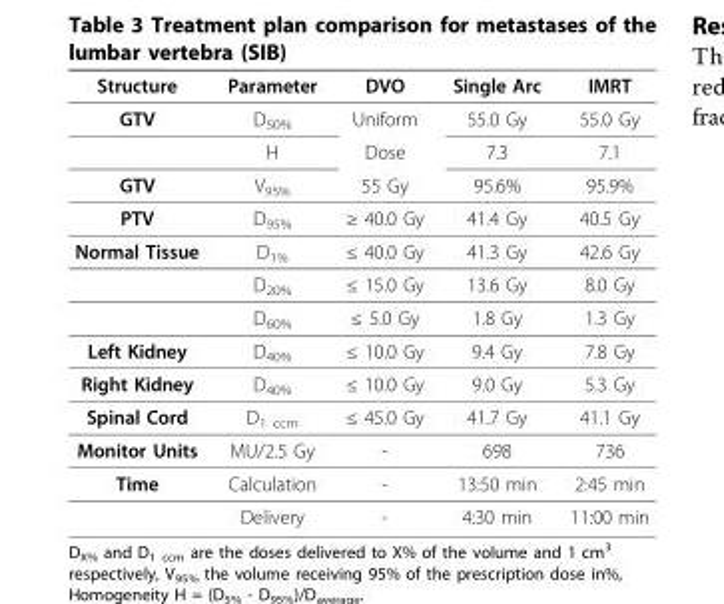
<table><thead><tr><td>Structure</td><td>Parameter</td><td>DVO</td><td>Single Arc</td><td>IMRT</td></tr></thead><tbody><tr><td rowspan="2">GTV</td><td>D<sub>50%</sub></td><td>Uniform</td><td>55.0 Gy</td><td>55.0 Gy</td></tr><tr><td>H</td><td>Dose</td><td>7.3</td><td>7.1</td></tr><tr><td>GTV</td><td>V<sub>95%</sub></td><td>55 Gy</td><td>95.6%</td><td>95.9%</td></tr><tr><td>PTV</td><td>D<sub>95%</sub></td><td>≥ 40.0 Gy</td><td>41.4 Gy</td><td>40.5 Gy</td></tr><tr><td rowspan="3">Normal Tissue</td><td>D<sub>1%</sub></td><td>≤ 40.0 Gy</td><td>41.3 Gy</td><td>42.6 Gy</td></tr><tr><td>D<sub>20%</sub></td><td>≤ 15.0 Gy</td><td>13.6 Gy</td><td>8.0 Gy</td></tr><tr><td>D<sub>60%</sub></td><td>≤ 5.0 Gy</td><td>1.8 Gy</td><td>1.3 Gy</td></tr><tr><td>Left Kidney</td><td>D<sub>40%</sub></td><td>≤ 10.0 Gy</td><td>9.4 Gy</td><td>7.8 Gy</td></tr><tr><td>Right Kidney</td><td>D<sub>40%</sub></td><td>≤ 10.0 Gy</td><td>9.0 Gy</td><td>5.3 Gy</td></tr><tr><td>Spinal Cord</td><td>D<sub>1 ccm</sub></td><td>≤ 45.0 Gy</td><td>41.7 Gy</td><td>41.1 Gy</td></tr><tr><td>Monitor Units</td><td>MU/2.5 Gy</td><td>-</td><td>698</td><td>736</td></tr><tr><td rowspan="2">Time</td><td>Calculation</td><td>-</td><td>13:50 min</td><td>2:45 min</td></tr><tr><td>Delivery</td><td>-</td><td>4:30 min</td><td>11:00 min</td></tr></tbody></table>